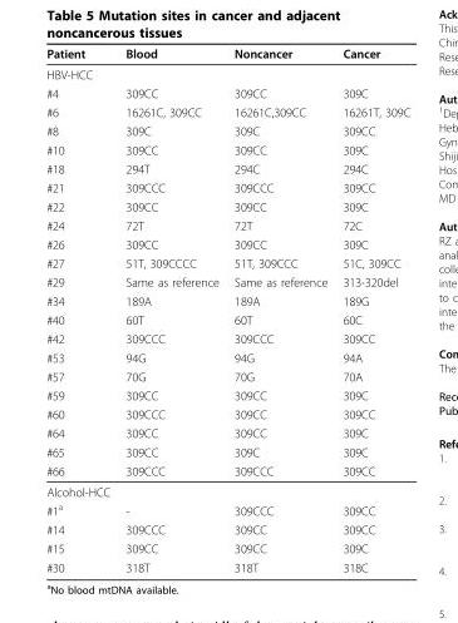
<table><thead><tr><td>Patient</td><td>Blood</td><td>Noncancer</td><td>Cancer</td></tr></thead><tbody><tr><td colspan="4">HBV-HCC</td></tr><tr><td>#4</td><td>309CC</td><td>309CC</td><td>309C</td></tr><tr><td>#6</td><td>16261C, 309CC</td><td>16261C,309CC</td><td>16261T, 309C</td></tr><tr><td>#8</td><td>309C</td><td>309C</td><td>309CC</td></tr><tr><td>#10</td><td>309CC</td><td>309CC</td><td>309C</td></tr><tr><td>#18</td><td>294T</td><td>294C</td><td>294C</td></tr><tr><td>#21</td><td>309CCC</td><td>309CCC</td><td>309CC</td></tr><tr><td>#22</td><td>309CC</td><td>309CC</td><td>309C</td></tr><tr><td>#24</td><td>72T</td><td>72T</td><td>72C</td></tr><tr><td>#26</td><td>309CC</td><td>309CC</td><td>309C</td></tr><tr><td>#27</td><td>51T, 309CCCC</td><td>51T, 309CCC</td><td>51C, 309CC</td></tr><tr><td>#29</td><td>Same as reference</td><td>Same as reference</td><td>313-320del</td></tr><tr><td>#34</td><td>189A</td><td>189A</td><td>189G</td></tr><tr><td>#40</td><td>60T</td><td>60T</td><td>60C</td></tr><tr><td>#42</td><td>309CCC</td><td>309CCC</td><td>309CC</td></tr><tr><td>#53</td><td>94G</td><td>94G</td><td>94A</td></tr><tr><td>#57</td><td>70G</td><td>70G</td><td>70A</td></tr><tr><td>#59</td><td>309CC</td><td>309CC</td><td>309C</td></tr><tr><td>#60</td><td>309CCC</td><td>309CC</td><td>309CC</td></tr><tr><td>#64</td><td>309CC</td><td>309CC</td><td>309C</td></tr><tr><td>#65</td><td>309CC</td><td>309C</td><td>309C</td></tr><tr><td>#66</td><td>309CCC</td><td>309CCC</td><td>309CC</td></tr><tr><td colspan="4">Alcohol-HCC</td></tr><tr><td>#1<sup>a</sup></td><td>-</td><td>309CCC</td><td>309CC</td></tr><tr><td>#14</td><td>309CCC</td><td>309CC</td><td>309CC</td></tr><tr><td>#15</td><td>309CC</td><td>309CC</td><td>309C</td></tr><tr><td>#30</td><td>318T</td><td>318T</td><td>318C</td></tr></tbody></table>